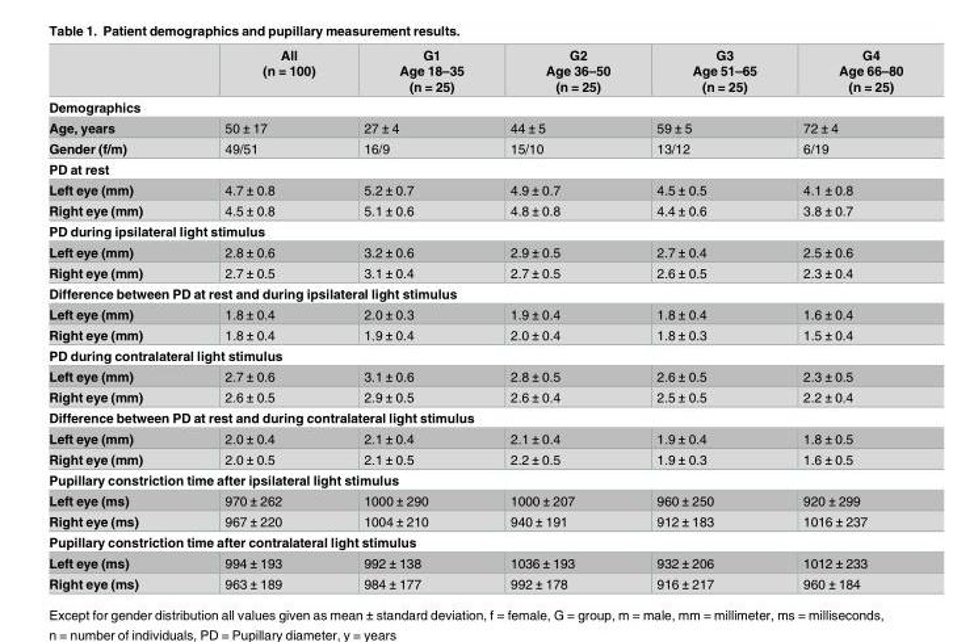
<table><thead><tr><td></td><td>All (n = 100)</td><td>G1 Age 18–35 (n = 25)</td><td>G2 Age 36–50 (n = 25)</td><td>G3 Age 51–65 (n = 25)</td><td>G4 Age 66–80 (n = 25)</td></tr></thead><tbody><tr><td colspan="6">Demographics</td></tr><tr><td>Age, years</td><td>50 ± 17</td><td>27 ± 4</td><td>44 ± 5</td><td>59 ± 5</td><td>72 ± 4</td></tr><tr><td>Gender (f/m)</td><td>49/51</td><td>16/9</td><td>15/10</td><td>13/12</td><td>6/19</td></tr><tr><td colspan="6">PD at rest</td></tr><tr><td>Left eye (mm)</td><td>4.7 ± 0.8</td><td>5.2 ± 0.7</td><td>4.9 ± 0.7</td><td>4.5 ± 0.5</td><td>4.1 ± 0.8</td></tr><tr><td>Right eye (mm)</td><td>4.5 ± 0.8</td><td>5.1 ± 0.6</td><td>4.8 ± 0.8</td><td>4.4 ± 0.6</td><td>3.8 ± 0.7</td></tr><tr><td colspan="6">PD during ipsilateral light stimulus</td></tr><tr><td>Left eye (mm)</td><td>2.8 ± 0.6</td><td>3.2 ± 0.6</td><td>2.9 ± 0.5</td><td>2.7 ± 0.4</td><td>2.5 ± 0.6</td></tr><tr><td>Right eye (mm)</td><td>2.7 ± 0.5</td><td>3.1 ± 0.4</td><td>2.7 ± 0.5</td><td>2.6 ± 0.5</td><td>2.3 ± 0.4</td></tr><tr><td colspan="6">Difference between PD at rest and during ipsilateral light stimulus</td></tr><tr><td>Left eye (mm)</td><td>1.8 ± 0.4</td><td>2.0 ± 0.3</td><td>1.9 ± 0.4</td><td>1.8 ± 0.4</td><td>1.6 ± 0.4</td></tr><tr><td>Right eye (mm)</td><td>1.8 ± 0.4</td><td>1.9 ± 0.4</td><td>2.0 ± 0.4</td><td>1.8 ± 0.3</td><td>1.5 ± 0.4</td></tr><tr><td colspan="6">PD during contralateral light stimulus</td></tr><tr><td>Left eye (mm)</td><td>2.7 ± 0.6</td><td>3.1 ± 0.6</td><td>2.8 ± 0.5</td><td>2.6 ± 0.5</td><td>2.3 ± 0.5</td></tr><tr><td>Right eye (mm)</td><td>2.6 ± 0.5</td><td>2.9 ± 0.5</td><td>2.6 ± 0.4</td><td>2.5 ± 0.5</td><td>2.2 ± 0.4</td></tr><tr><td colspan="6">Difference between PD at rest and during contralateral light stimulus</td></tr><tr><td>Left eye (mm)</td><td>2.0 ± 0.4</td><td>2.1 ± 0.4</td><td>2.1 ± 0.4</td><td>1.9 ± 0.4</td><td>1.8 ± 0.5</td></tr><tr><td>Right eye (mm)</td><td>2.0 ± 0.5</td><td>2.1 ± 0.5</td><td>2.2 ± 0.5</td><td>1.9 ± 0.3</td><td>1.6 ± 0.5</td></tr><tr><td colspan="6">Pupillary constriction time after ipsilateral light stimulus</td></tr><tr><td>Left eye (ms)</td><td>970 ± 262</td><td>1000 ± 290</td><td>1000 ± 207</td><td>960 ± 250</td><td>920 ± 299</td></tr><tr><td>Right eye (ms)</td><td>967 ± 220</td><td>1004 ± 210</td><td>940 ± 191</td><td>912 ± 183</td><td>1016 ± 237</td></tr><tr><td colspan="6">Pupillary constriction time after contralateral light stimulus</td></tr><tr><td>Left eye (ms)</td><td>994 ± 193</td><td>992 ± 138</td><td>1036 ± 193</td><td>932 ± 206</td><td>1012 ± 233</td></tr><tr><td>Right eye (ms)</td><td>963 ± 189</td><td>984 ± 177</td><td>992 ± 178</td><td>916 ± 217</td><td>960 ± 184</td></tr></tbody></table>